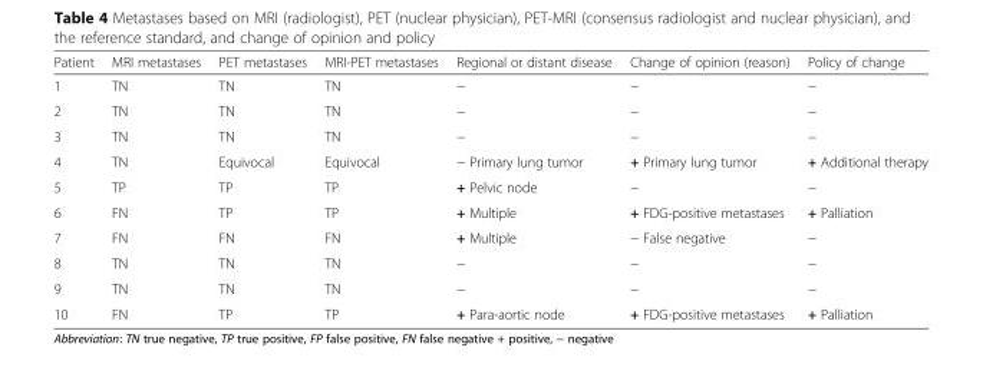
<table><thead><tr><td>Patient</td><td>MRI metastases</td><td>PET metastases</td><td>MRI-PET metastases</td><td>Regional or distant disease</td><td>Change of opinion (reason)</td><td>Policy of change</td></tr></thead><tbody><tr><td>1</td><td>TN</td><td>TN</td><td>TN</td><td>−</td><td>−</td><td>−</td></tr><tr><td>2</td><td>TN</td><td>TN</td><td>TN</td><td>−</td><td>−</td><td>−</td></tr><tr><td>3</td><td>TN</td><td>TN</td><td>TN</td><td>−</td><td>−</td><td>−</td></tr><tr><td>4</td><td>TN</td><td>Equivocal</td><td>Equivocal</td><td>− Primary lung tumor</td><td>+ Primary lung tumor</td><td>+ Additional therapy</td></tr><tr><td>5</td><td>TP</td><td>TP</td><td>TP</td><td>+ Pelvic node</td><td>−</td><td>−</td></tr><tr><td>6</td><td>FN</td><td>TP</td><td>TP</td><td>+ Multiple</td><td>+ FDG-positive metastases</td><td>+ Palliation</td></tr><tr><td>7</td><td>FN</td><td>FN</td><td>FN</td><td>+ Multiple</td><td>− False negative</td><td>−</td></tr><tr><td>8</td><td>TN</td><td>TN</td><td>TN</td><td>−</td><td>−</td><td>−</td></tr><tr><td>9</td><td>TN</td><td>TN</td><td>TN</td><td>−</td><td>−</td><td>−</td></tr><tr><td>10</td><td>FN</td><td>TP</td><td>TP</td><td>+ Para-aortic node</td><td>+ FDG-positive metastases</td><td>+ Palliation</td></tr></tbody></table>